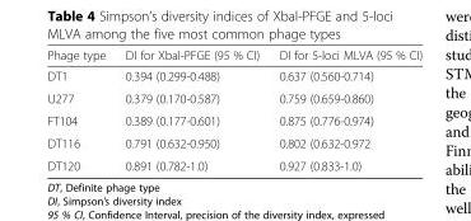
<table><thead><tr><td>Phage type</td><td>DI for Xbal-PFGE (95 % CI)</td><td>DI for 5-loci MLVA (95 % CI)</td></tr></thead><tbody><tr><td>DT1</td><td>0.394 (0.299-0.488)</td><td>0.637 (0.560-0.714)</td></tr><tr><td>U277</td><td>0.379 (0.170-0.587)</td><td>0.759 (0.659-0.860)</td></tr><tr><td>FT104</td><td>0.389 (0.177-0.601)</td><td>0.875 (0.776-0.974)</td></tr><tr><td>DT116</td><td>0.791 (0.632-0.950)</td><td>0.802 (0.632-0.972</td></tr><tr><td>DT120</td><td>0.891 (0.782-1.0)</td><td>0.927 (0.833-1.0)</td></tr></tbody></table>